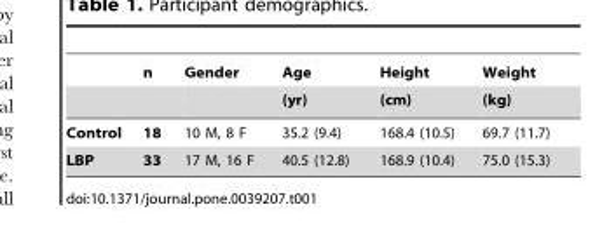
<table><thead><tr><td rowspan="2"></td><td rowspan="2">n</td><td rowspan="2">Gender</td><td rowspan="2">Age (yr)</td><td rowspan="2">Height (cm)</td><td rowspan="2">Weight (kg)</td></tr><tr></tr></thead><tbody><tr><td>Control</td><td>18</td><td>10 M, 8 F</td><td>35.2 (9.4)</td><td>168.4 (10.5)</td><td>69.7 (11.7)</td></tr><tr><td>LBP</td><td>33</td><td>17 M, 16 F</td><td>40.5 (12.8)</td><td>168.9 (10.4)</td><td>75.0 (15.3)</td></tr></tbody></table>